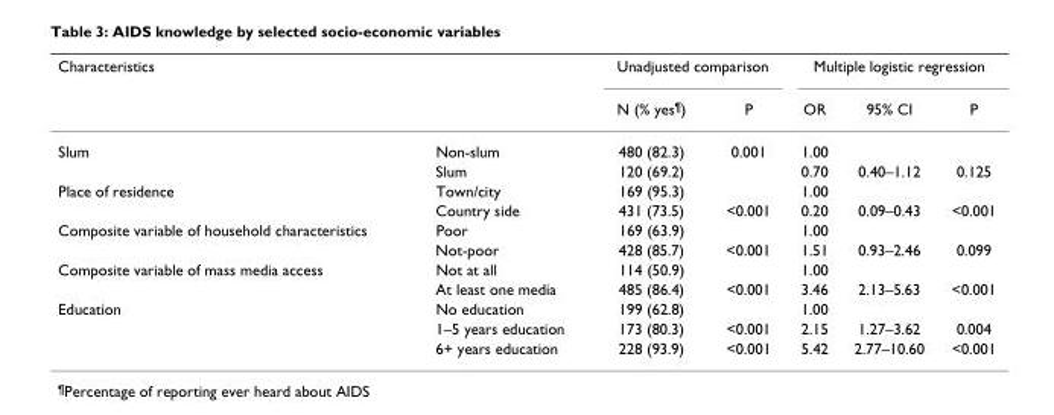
<table><thead><tr><td rowspan="2">Characteristics</td><td rowspan="2"></td><td colspan="2">Unadjusted comparison</td><td colspan="3">Multiple logistic regression</td></tr><tr><td>N (% yes<sup>¶</sup>)</td><td>P</td><td>OR</td><td>95% CI</td><td>P</td></tr></thead><tbody><tr><td rowspan="2">Slum</td><td>Non-slum</td><td>480 (82.3)</td><td>0.001</td><td>1.00</td><td></td><td></td></tr><tr><td>Slum</td><td>120 (69.2)</td><td></td><td>0.70</td><td>0.40–1.12</td><td>0.125</td></tr><tr><td rowspan="2">Place of residence</td><td>Town/city</td><td>169 (95.3)</td><td></td><td>1.00</td><td></td><td></td></tr><tr><td>Country side</td><td>431 (73.5)</td><td>&lt;0.001</td><td>0.20</td><td>0.09–0.43</td><td>&lt;0.001</td></tr><tr><td rowspan="2">Composite variable of household characteristics</td><td>Poor</td><td>169 (63.9)</td><td></td><td>1.00</td><td></td><td></td></tr><tr><td>Not-poor</td><td>428 (85.7)</td><td>&lt;0.001</td><td>1.51</td><td>0.93–2.46</td><td>0.099</td></tr><tr><td rowspan="2">Composite variable of mass media access</td><td>Not at all</td><td>114 (50.9)</td><td></td><td>1.00</td><td></td><td></td></tr><tr><td>At least one media</td><td>485 (86.4)</td><td>&lt;0.001</td><td>3.46</td><td>2.13–5.63</td><td>&lt;0.001</td></tr><tr><td rowspan="3">Education</td><td>No education</td><td>199 (62.8)</td><td></td><td>1.00</td><td></td><td></td></tr><tr><td>1–5 years education</td><td>173 (80.3)</td><td>&lt;0.001</td><td>2.15</td><td>1.27–3.62</td><td>0.004</td></tr><tr><td>6+ years education</td><td>228 (93.9)</td><td>&lt;0.001</td><td>5.42</td><td>2.77–10.60</td><td>&lt;0.001</td></tr></tbody></table>